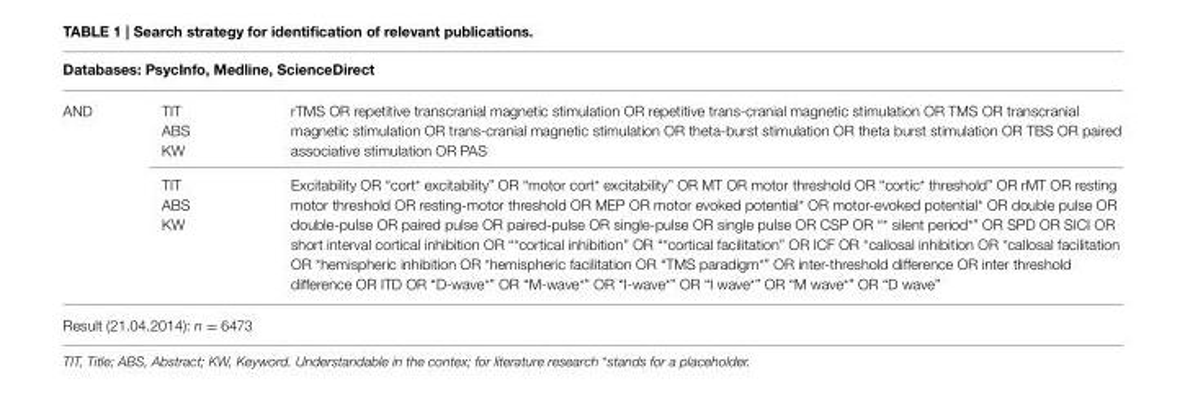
<table><thead><tr><td colspan="3">Databases: PsycInfo, Medline, ScienceDirect</td></tr><tr><td>AND</td><td>TIT ABS KW</td><td>rTMS OR repetitive transcranial magnetic stimulation OR repetitive trans-cranial magnetic stimulation OR TMS OR transcranial magnetic stimulation OR trans-cranial magnetic stimulation OR theta-burst stimulation OR theta burst stimulation OR TBS OR paired associative stimulation OR PAS</td></tr></thead><tbody><tr><td></td><td>TIT ABS KW</td><td>Excitability OR “cort* excitability” OR “motor cort* excitability” OR MT OR motor threshold OR “cortic* threshold” OR rMT OR resting motor threshold OR resting-motor threshold OR MEP OR motor evoked potential* OR motor-evoked potential* OR double pulse OR double-pulse OR paired pulse OR paired-pulse OR single-pulse OR single pulse OR CSP OR “* silent period*” OR SPD OR SICI OR short interval cortical inhibition OR “*cortical inhibition” OR “*cortical facilitation” OR ICF OR *callosal inhibition OR *callosal facilitation OR *hemispheric inhibition OR *hemispheric facilitation OR “TMS paradigm*” OR inter-threshold difference OR inter threshold difference OR ITD OR “D-wave*” OR “M-wave*” OR “I-wave*” OR “I wave*” OR “M wave*” OR “D wave”</td></tr><tr><td colspan="3">Result (21.04.2014): n = 6473</td></tr></tbody></table>